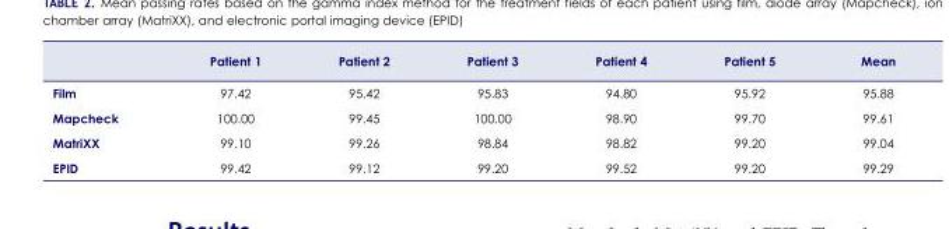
<table><thead><tr><td></td><td>Patient 1</td><td>Patient 2</td><td>Patient 3</td><td>Patient 4</td><td>Patient 5</td><td>Mean</td></tr></thead><tbody><tr><td>Film</td><td>97.42</td><td>95.42</td><td>95.83</td><td>94.80</td><td>95.92</td><td>95.88</td></tr><tr><td>Mapcheck</td><td>100.00</td><td>99.45</td><td>100.00</td><td>98.90</td><td>99.70</td><td>99.61</td></tr><tr><td>MatriXX</td><td>99.10</td><td>99.26</td><td>98.84</td><td>98.82</td><td>99.20</td><td>99.04</td></tr><tr><td>EPID</td><td>99.42</td><td>99.12</td><td>99.20</td><td>99.52</td><td>99.20</td><td>99.29</td></tr></tbody></table>